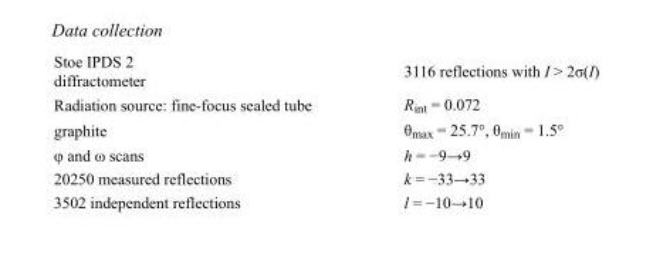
<table><tbody><tr><td>Stoe IPDS 2 diffractometer</td><td>3116 reflections with I &gt; 2σ(I)</td></tr><tr><td>Radiation source: fine-focus sealed tube</td><td>R<sub>int</sub> = 0.072</td></tr><tr><td>graphite</td><td>θ<sub>max</sub> = 25.7°, θ<sub>min</sub> = 1.5°</td></tr><tr><td>φ and ω scans</td><td>h = −9→9</td></tr><tr><td>20250 measured reflections</td><td>k = −33→33</td></tr><tr><td>3502 independent reflections</td><td>l = −10→10</td></tr></tbody></table>